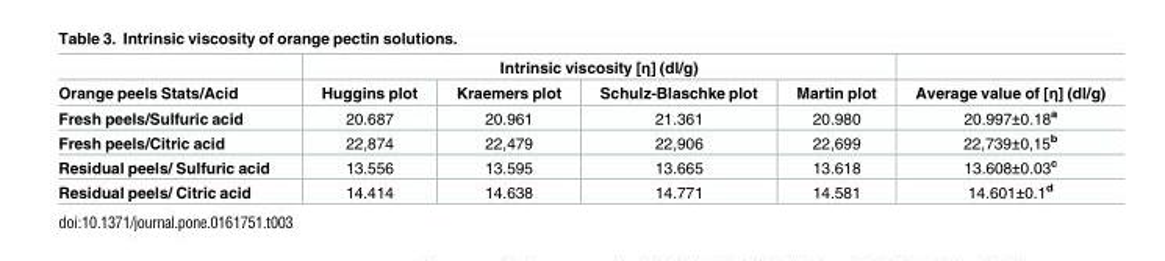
<table><thead><tr><td rowspan="2">Orange peels Stats/Acid</td><td colspan="4">Intrinsic viscosity [η] (dl/g)</td><td rowspan="2">Average value of [η] (dl/g)</td></tr><tr><td>Huggins plot</td><td>Kraemers plot</td><td>Schulz-Blaschke plot</td><td>Martin plot</td></tr></thead><tbody><tr><td>Fresh peels/Sulfuric acid</td><td>20.687</td><td>20.961</td><td>21.361</td><td>20.980</td><td>20.997±0.18<sup>a</sup></td></tr><tr><td>Fresh peels/Citric acid</td><td>22,874</td><td>22,479</td><td>22,906</td><td>22,699</td><td>22,739±0,15<sup>b</sup></td></tr><tr><td>Residual peels/ Sulfuric acid</td><td>13.556</td><td>13.595</td><td>13.665</td><td>13.618</td><td>13.608±0.03<sup>c</sup></td></tr><tr><td>Residual peels/ Citric acid</td><td>14.414</td><td>14.638</td><td>14.771</td><td>14.581</td><td>14.601±0.1<sup>d</sup></td></tr></tbody></table>